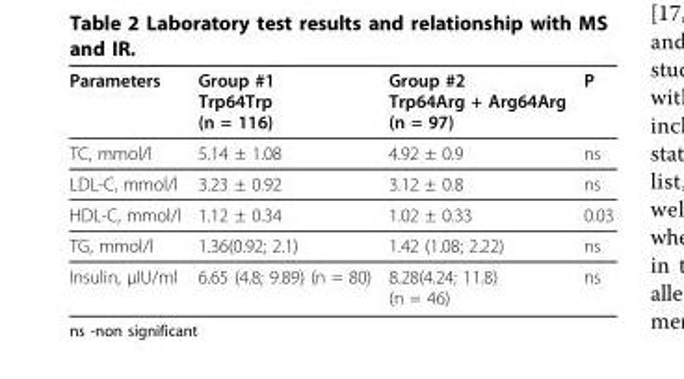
<table><thead><tr><td>Parameters</td><td>Group #1 Trp64Trp (n = 116)</td><td>Group #2 Trp64Arg + Arg64Arg (n = 97)</td><td>P</td></tr></thead><tbody><tr><td>TC, mmol/l</td><td>5.14 ± 1.08</td><td>4.92 ± 0.9</td><td>ns</td></tr><tr><td>LDL-C, mmol/l</td><td>3.23 ± 0.92</td><td>3.12 ± 0.8</td><td>ns</td></tr><tr><td>HDL-C, mmol/l</td><td>1.12 ± 0.34</td><td>1.02 ± 0.33</td><td>0.03</td></tr><tr><td>TG, mmol/l</td><td>1.36(0.92; 2.1)</td><td>1.42 (1.08; 2.22)</td><td>ns</td></tr><tr><td>Insulin, μIU/ml</td><td>6.65 (4.8; 9.89) (n = 80)</td><td>8.28(4.24; 11.8) (n = 46)</td><td>ns</td></tr></tbody></table>